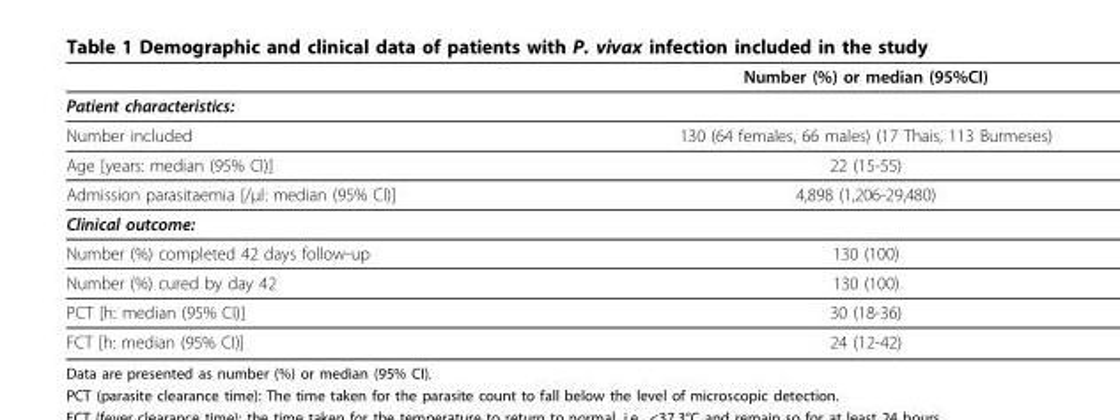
<table><thead><tr><td></td><td>Number (%) or median (95%CI)</td></tr></thead><tbody><tr><td colspan="2">Patient characteristics:</td></tr><tr><td>Number included</td><td>130 (64 females, 66 males) (17 Thais, 113 Burmeses)</td></tr><tr><td>Age [years: median (95% CI)]</td><td>22 (15-55)</td></tr><tr><td>Admission parasitaemia [/μl: median (95% CI)]</td><td>4,898 (1,206-29,480)</td></tr><tr><td colspan="2">Clinical outcome:</td></tr><tr><td>Number (%) completed 42 days follow-up</td><td>130 (100)</td></tr><tr><td>Number (%) cured by day 42</td><td>130 (100)</td></tr><tr><td>PCT [h: median (95% CI)]</td><td>30 (18-36)</td></tr><tr><td>FCT [h: median (95% CI)]</td><td>24 (12-42)</td></tr></tbody></table>